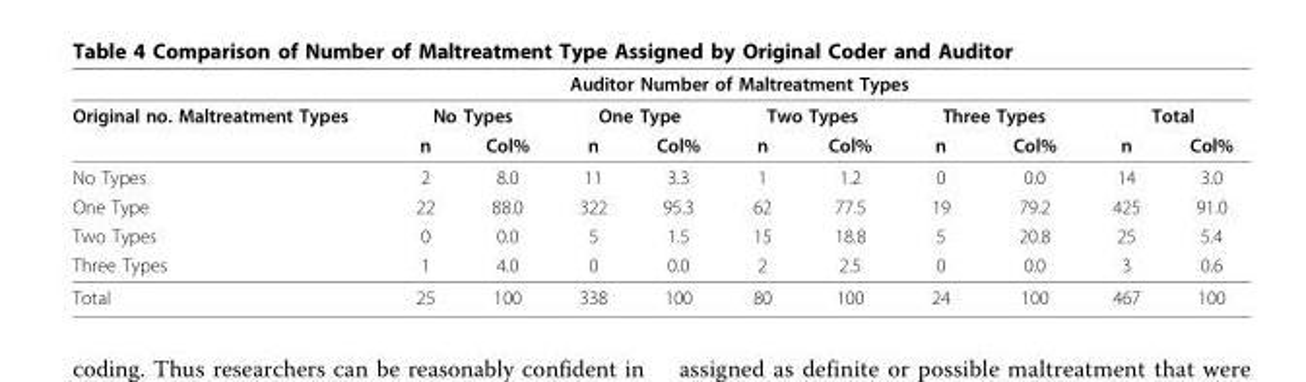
<table><thead><tr><td rowspan="3">Original no. Maltreatment Types</td><td colspan="8">Auditor Number of Maltreatment Types</td><td></td><td></td></tr><tr><td colspan="2">No Types</td><td colspan="2">One Type</td><td colspan="2">Two Types</td><td colspan="2">Three Types</td><td colspan="2">Total</td></tr><tr><td>n</td><td>Col%</td><td>n</td><td>Col%</td><td>n</td><td>Col%</td><td>n</td><td>Col%</td><td>n</td><td>Col%</td></tr></thead><tbody><tr><td>No Types</td><td>2</td><td>8.0</td><td>11</td><td>3.3</td><td>1</td><td>1.2</td><td>0</td><td>0.0</td><td>14</td><td>3.0</td></tr><tr><td>One Type</td><td>22</td><td>88.0</td><td>322</td><td>95.3</td><td>62</td><td>77.5</td><td>19</td><td>79.2</td><td>425</td><td>91.0</td></tr><tr><td>Two Types</td><td>0</td><td>0.0</td><td>5</td><td>1.5</td><td>15</td><td>18.8</td><td>5</td><td>20.8</td><td>25</td><td>5.4</td></tr><tr><td>Three Types</td><td>1</td><td>4.0</td><td>0</td><td>0.0</td><td>2</td><td>2.5</td><td>0</td><td>0.0</td><td>3</td><td>0.6</td></tr><tr><td>Total</td><td>25</td><td>100</td><td>338</td><td>100</td><td>80</td><td>100</td><td>24</td><td>100</td><td>467</td><td>100</td></tr></tbody></table>